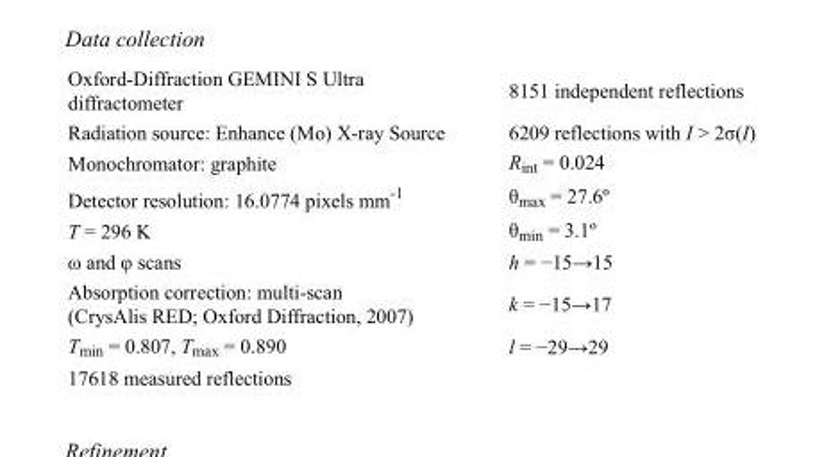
<table><tbody><tr><td>Oxford-Diffraction GEMINI S Ultra diffractometer</td><td>8151 independent reflections</td></tr><tr><td>Radiation source: Enhance (Mo) X-ray Source</td><td>6209 reflections with I &gt; 2σ(I)</td></tr><tr><td>Monochromator: graphite</td><td>R<sub>int</sub> = 0.024</td></tr><tr><td>Detector resolution: 16.0774 pixels mm<sup>-1</sup></td><td>θ<sub>max</sub> = 27.6º</td></tr><tr><td>T = 296 K</td><td>θ<sub>min</sub> = 3.1º</td></tr><tr><td>ω and φ scans</td><td>h = −15→15</td></tr><tr><td>Absorption correction: multi-scan (CrysAlis RED; Oxford Diffraction, 2007)</td><td>k = −15→17</td></tr><tr><td>T<sub>min</sub> = 0.807, T<sub>max</sub> = 0.890</td><td>l = −29→29</td></tr><tr><td>17618 measured reflections</td><td></td></tr></tbody></table>